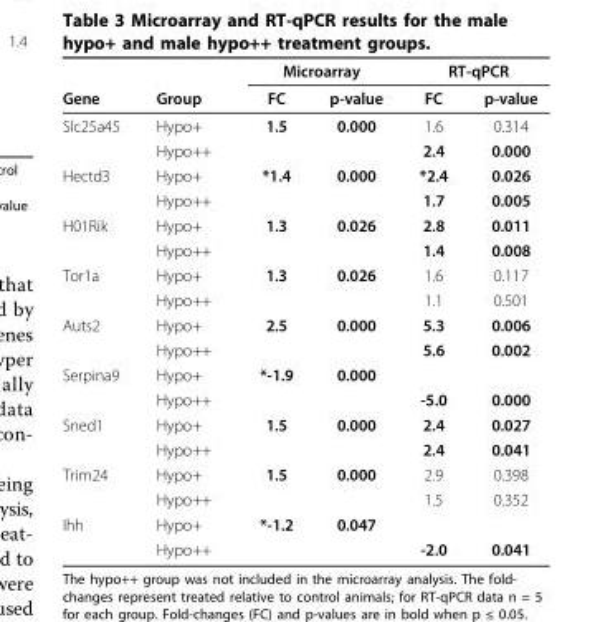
<table><thead><tr><td rowspan="2">Gene</td><td rowspan="2">Group</td><td colspan="2">Microarray</td><td colspan="2">RT-qPCR</td></tr><tr><td>FC</td><td>p-value</td><td>FC</td><td>p-value</td></tr></thead><tbody><tr><td rowspan="2">Slc25a45</td><td>Hypo+</td><td>1.5</td><td>0.000</td><td>1.6</td><td>0.314</td></tr><tr><td>Hypo++</td><td></td><td></td><td>2.4</td><td>0.000</td></tr><tr><td rowspan="2">Hectd3</td><td>Hypo+</td><td>*1.4</td><td>0.000</td><td>*2.4</td><td>0.026</td></tr><tr><td>Hypo++</td><td></td><td></td><td>1.7</td><td>0.005</td></tr><tr><td rowspan="2">H01Rik</td><td>Hypo+</td><td>1.3</td><td>0.026</td><td>2.8</td><td>0.011</td></tr><tr><td>Hypo++</td><td></td><td></td><td>1.4</td><td>0.008</td></tr><tr><td rowspan="2">Tor1a</td><td>Hypo+</td><td>1.3</td><td>0.026</td><td>1.6</td><td>0.117</td></tr><tr><td>Hypo++</td><td></td><td></td><td>1.1</td><td>0.501</td></tr><tr><td rowspan="2">Auts2</td><td>Hypo+</td><td>2.5</td><td>0.000</td><td>5.3</td><td>0.006</td></tr><tr><td>Hypo++</td><td></td><td></td><td>5.6</td><td>0.002</td></tr><tr><td rowspan="2">Serpina9</td><td>Hypo+</td><td>*-1.9</td><td>0.000</td><td></td><td></td></tr><tr><td>Hypo++</td><td></td><td></td><td>-5.0</td><td>0.000</td></tr><tr><td rowspan="2">Sned1</td><td>Hypo+</td><td>1.5</td><td>0.000</td><td>2.4</td><td>0.027</td></tr><tr><td>Hypo++</td><td></td><td></td><td>2.4</td><td>0.041</td></tr><tr><td rowspan="2">Trim24</td><td>Hypo+</td><td>1.5</td><td>0.000</td><td>2.9</td><td>0.398</td></tr><tr><td>Hypo++</td><td></td><td></td><td>1.5</td><td>0.352</td></tr><tr><td rowspan="2">Ihh</td><td>Hypo+</td><td>*-1.2</td><td>0.047</td><td></td><td></td></tr><tr><td>Hypo++</td><td></td><td></td><td>-2.0</td><td>0.041</td></tr></tbody></table>